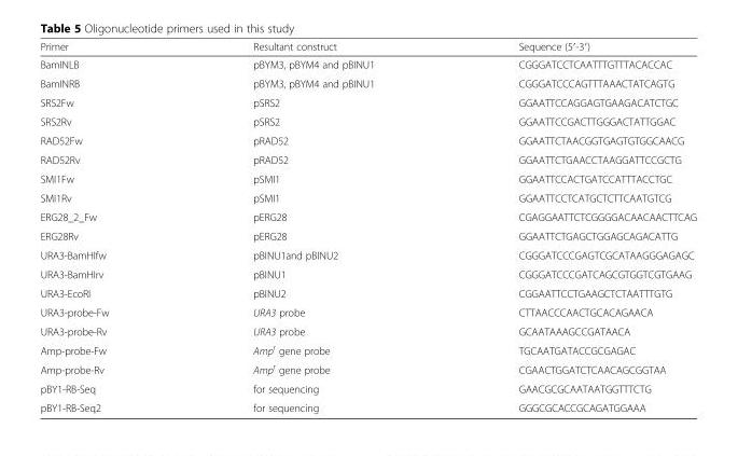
<table><thead><tr><td>Primer</td><td>Resultant construct</td><td>Sequence (5′-3′)</td></tr></thead><tbody><tr><td>BamINLB</td><td>pBYM3, pBYM4 and pBINU1</td><td>CGGGATCCTCAATTTGTTTACACCAC</td></tr><tr><td>BamINRB</td><td>pBYM3, pBYM4 and pBINU1</td><td>CGGGATCCCAGTTTAAACTATCAGTG</td></tr><tr><td>SRS2Fw</td><td>pSRS2</td><td>GGAATTCCAGGAGTGAAGACATCTGC</td></tr><tr><td>SRS2Rv</td><td>pSRS2</td><td>GGAATTCCGACTTGGGACTATTGGAC</td></tr><tr><td>RAD52Fw</td><td>pRAD52</td><td>GGAATTCTAACGGTGAGTGTGGCAACG</td></tr><tr><td>RAD52Rv</td><td>pRAD52</td><td>GGAATTCTGAACCTAAGGATTCCGCTG</td></tr><tr><td>SMI1Fw</td><td>pSMI1</td><td>GGAATTCCACTGATCCATTTACCTGC</td></tr><tr><td>SMI1Rv</td><td>pSMI1</td><td>GGAATTCCTCATGCTCTTCAATGTCG</td></tr><tr><td>ERG28_2_Fw</td><td>pERG28</td><td>CGAGGAATTCTCGGGGACAACAACTTCAG</td></tr><tr><td>ERG28Rv</td><td>pERG28</td><td>GGAATTCTGAGCTGGAGCAGACATTG</td></tr><tr><td>URA3-BamHIfw</td><td>pBINU1and pBINU2</td><td>CGGGATCCCGAGTCGCATAAGGGAGAGC</td></tr><tr><td>URA3-BamHIrv</td><td>pBINU1</td><td>CGGGATCCCGATCAGCGTGGTCGTGAAG</td></tr><tr><td>URA3-EcoRI</td><td>pBINU2</td><td>CGGAATTCCTGAAGCTCTAATTTGTG</td></tr><tr><td>URA3-probe-Fw</td><td>URA3 probe</td><td>CTTAACCCAACTGCACAGAACA</td></tr><tr><td>URA3-probe-Rv</td><td>URA3 probe</td><td>GCAATAAAGCCGATAACA</td></tr><tr><td>Amp-probe-Fw</td><td>Amp<sup>r</sup> gene probe</td><td>TGCAATGATACCGCGAGAC</td></tr><tr><td>Amp-probe-Rv</td><td>Amp<sup>r</sup> gene probe</td><td>CGAACTGGATCTCAACAGCGGTAA</td></tr><tr><td>pBY1-RB-Seq</td><td>for sequencing</td><td>GAACGCGCAATAATGGTTTCTG</td></tr><tr><td>pBY1-RB-Seq2</td><td>for sequencing</td><td>GGGCGCACCGCAGATGGAAA</td></tr></tbody></table>